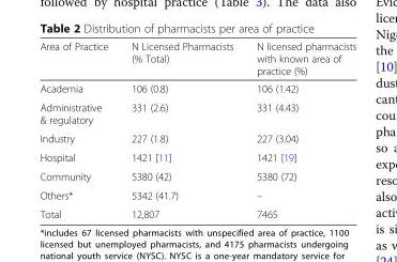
<table><thead><tr><td>Area of Practice</td><td>N Licensed Pharmacists (% Total)</td><td>N licensed pharmacists with known area of practice (%)</td></tr></thead><tbody><tr><td>Academia</td><td>106 (0.8)</td><td>106 (1.42)</td></tr><tr><td>Administrative &amp; regulatory</td><td>331 (2.6)</td><td>331 (4.43)</td></tr><tr><td>Industry</td><td>227 (1.8)</td><td>227 (3.04)</td></tr><tr><td>Hospital</td><td>1421 [11]</td><td>1421 [19]</td></tr><tr><td>Community</td><td>5380 (42)</td><td>5380 (72)</td></tr><tr><td>Others*</td><td>5342 (41.7)</td><td>–</td></tr><tr><td>Total</td><td>12,807</td><td>7465</td></tr></tbody></table>